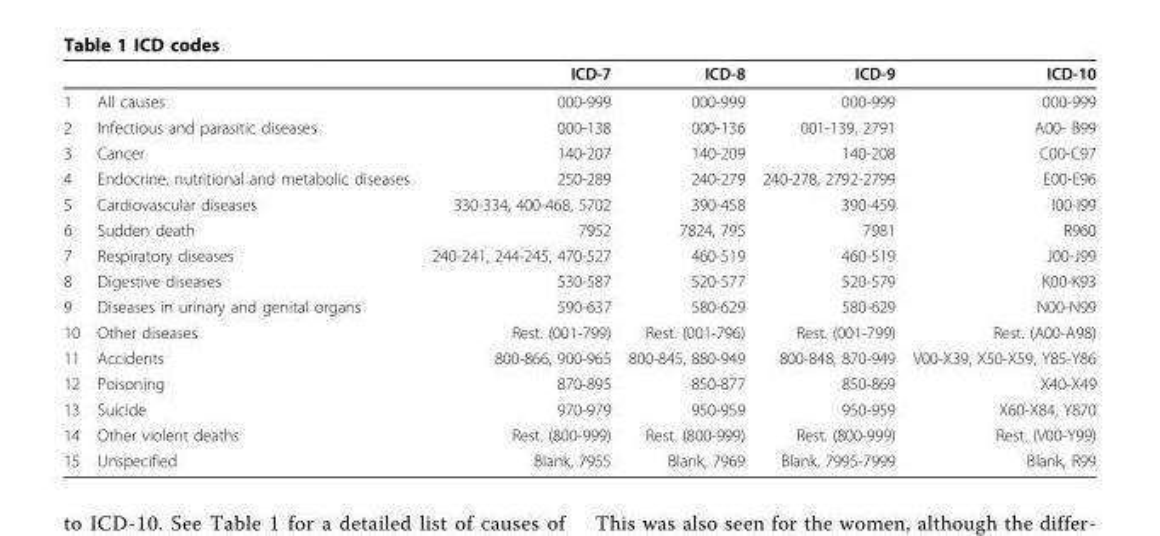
<table><thead><tr><td></td><td></td><td>ICD-7</td><td>ICD-8</td><td>ICD-9</td><td>ICD-10</td></tr></thead><tbody><tr><td>1</td><td>All causes</td><td>000-999</td><td>000-999</td><td>000-999</td><td>000-999</td></tr><tr><td>2</td><td>Infectious and parasitic diseases</td><td>000-138</td><td>000-136</td><td>001-139, 2791</td><td>A00- B99</td></tr><tr><td>3</td><td>Cancer</td><td>140-207</td><td>140-209</td><td>140-208</td><td>C00-C97</td></tr><tr><td>4</td><td>Endocrine, nutritional and metabolic diseases</td><td>250-289</td><td>240-279</td><td>240-278, 2792-2799</td><td>E00-E96</td></tr><tr><td>5</td><td>Cardiovascular diseases</td><td>330-334, 400-468, 5702</td><td>390-458</td><td>390-459</td><td>I00-I99</td></tr><tr><td>6</td><td>Sudden death</td><td>7952</td><td>7824, 795</td><td>7981</td><td>R960</td></tr><tr><td>7</td><td>Respiratory diseases</td><td>240-241, 244-245, 470-527</td><td>460-519</td><td>460-519</td><td>J00-J99</td></tr><tr><td>8</td><td>Digestive diseases</td><td>530-587</td><td>520-577</td><td>520-579</td><td>K00-K93</td></tr><tr><td>9</td><td>Diseases in urinary and genital organs</td><td>590-637</td><td>580-629</td><td>580-629</td><td>N00-N99</td></tr><tr><td>10</td><td>Other diseases</td><td>Rest. (001-799)</td><td>Rest. (001-796)</td><td>Rest. (001-799)</td><td>Rest. (A00-A98)</td></tr><tr><td>11</td><td>Accidents</td><td>800-866, 900-965</td><td>800-845, 880-949</td><td>800-848, 870-949</td><td>V00-X39, X50-X59, Y85-Y86</td></tr><tr><td>12</td><td>Poisoning</td><td>870-895</td><td>850-877</td><td>850-869</td><td>X40-X49</td></tr><tr><td>13</td><td>Suicide</td><td>970-979</td><td>950-959</td><td>950-959</td><td>X60-X84, Y870</td></tr><tr><td>14</td><td>Other violent deaths</td><td>Rest. (800-999)</td><td>Rest. (800-999)</td><td>Rest. (800-999)</td><td>Rest. (V00-Y99)</td></tr><tr><td>15</td><td>Unspecified</td><td>Blank, 7955</td><td>Blank, 7969</td><td>Blank, 7995-7999</td><td>Blank, R99</td></tr></tbody></table>